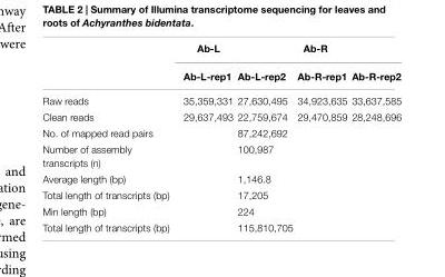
<table><thead><tr><td rowspan="2"></td><td rowspan="2">Ab-L Ab-L-rep1</td><td rowspan="2">Ab-L-rep2</td><td rowspan="2">Ab-R Ab-R-rep1</td><td rowspan="2">Ab-R-rep2</td></tr><tr></tr></thead><tbody><tr><td>Raw reads</td><td>35,359,331</td><td>27,630,495</td><td>34,923,635</td><td>33,637,585</td></tr><tr><td>Clean reads</td><td>29,637,493</td><td>22,759,674</td><td>29,470,859</td><td>28,248,696</td></tr><tr><td>No. of mapped read pairs</td><td></td><td>87,242,692</td><td></td><td></td></tr><tr><td>Number of assembly transcripts (n)</td><td></td><td>100,987</td><td></td><td></td></tr><tr><td>Average length (bp)</td><td></td><td>1,146.8</td><td></td><td></td></tr><tr><td>Total length of transcripts (bp)</td><td></td><td>17,205</td><td></td><td></td></tr><tr><td>Min length (bp)</td><td></td><td>224</td><td></td><td></td></tr><tr><td>Total length of transcripts (bp)</td><td></td><td>115,810,705</td><td></td><td></td></tr></tbody></table>